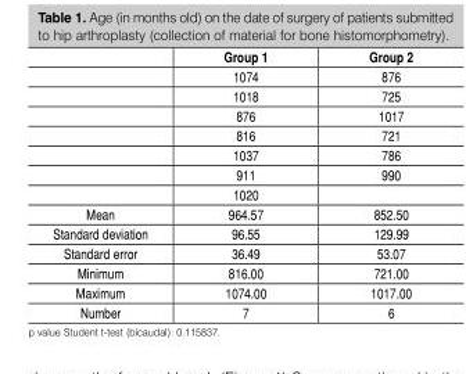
<table><thead><tr><td></td><td>Group 1</td><td>Group 2</td></tr></thead><tbody><tr><td></td><td>1074</td><td>876</td></tr><tr><td></td><td>1018</td><td>725</td></tr><tr><td></td><td>876</td><td>1017</td></tr><tr><td></td><td>816</td><td>721</td></tr><tr><td></td><td>1037</td><td>786</td></tr><tr><td></td><td>911</td><td>990</td></tr><tr><td></td><td>1020</td><td></td></tr><tr><td>Mean</td><td>964.57</td><td>852.50</td></tr><tr><td>Standard deviation</td><td>96.55</td><td>129.99</td></tr><tr><td>Standard error</td><td>36.49</td><td>53.07</td></tr><tr><td>Minimum</td><td>816.00</td><td>721.00</td></tr><tr><td>Maximum</td><td>1074.00</td><td>1017.00</td></tr><tr><td>Number</td><td>7</td><td>6</td></tr></tbody></table>